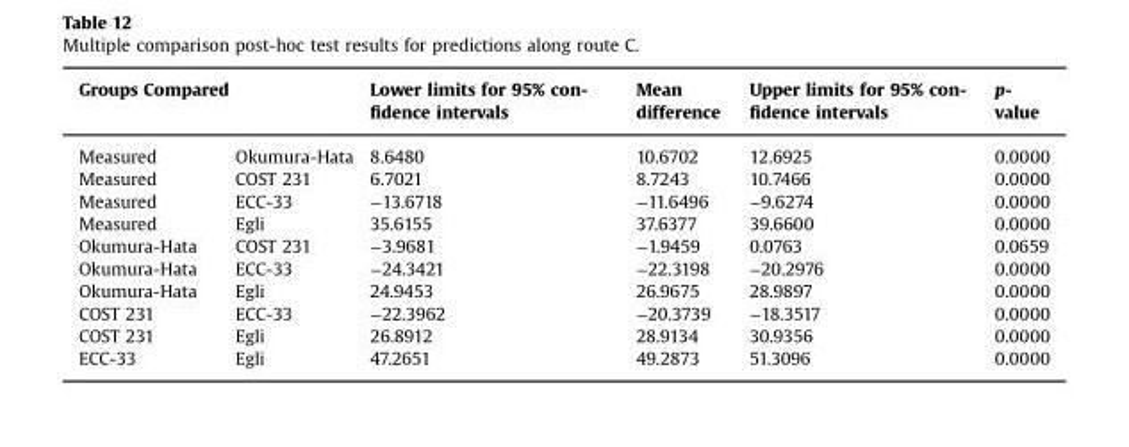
<table><thead><tr><td colspan="2">Groups Compared</td><td rowspan="2">Lower limits for 95% con- fidence intervals 8.6480</td><td rowspan="2">Mean difference 10.6702</td><td rowspan="2">Upper limits for 95% con- fidence intervals 12.6925</td><td rowspan="2">p- value 0.0000</td></tr><tr><td>Measured</td><td>Okumura-Hata</td></tr></thead><tbody><tr><td>Measured</td><td>COST 231</td><td>6.7021</td><td>8.7243</td><td>10.7466</td><td>0.0000</td></tr><tr><td>Measured</td><td>ECC-33</td><td>−13.6718</td><td>−11.6496</td><td>−9.6274</td><td>0.0000</td></tr><tr><td>Measured</td><td>Egli</td><td>35.6155</td><td>37.6377</td><td>39.6600</td><td>0.0000</td></tr><tr><td>Okumura-Hata</td><td>COST 231</td><td>−3.9681</td><td>−1.9459</td><td>0.0763</td><td>0.0659</td></tr><tr><td>Okumura-Hata</td><td>ECC-33</td><td>−24.3421</td><td>−22.3198</td><td>−20.2976</td><td>0.0000</td></tr><tr><td>Okumura-Hata</td><td>Egli</td><td>24.9453</td><td>26.9675</td><td>28.9897</td><td>0.0000</td></tr><tr><td>COST 231</td><td>ECC-33</td><td>−22.3962</td><td>−20.3739</td><td>−18.3517</td><td>0.0000</td></tr><tr><td>COST 231</td><td>Egli</td><td>26.8912</td><td>28.9134</td><td>30.9356</td><td>0.0000</td></tr><tr><td>ECC-33</td><td>Egli</td><td>47.2651</td><td>49.2873</td><td>51.3096</td><td>0.0000</td></tr></tbody></table>